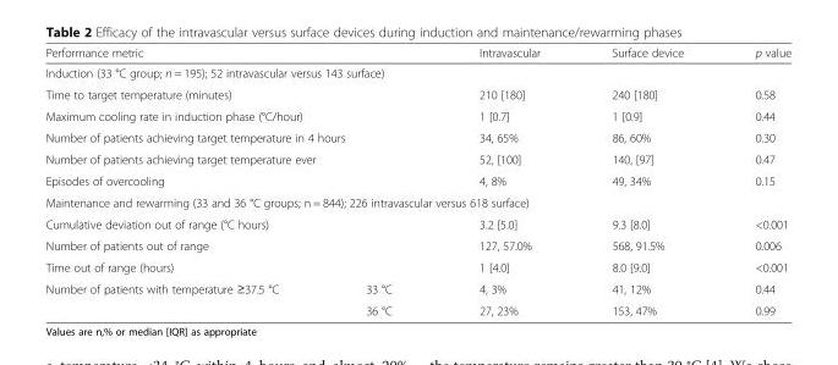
<table><thead><tr><td colspan="2">Performance metric</td><td>Intravascular</td><td>Surface device</td><td>p value</td></tr></thead><tbody><tr><td colspan="5">Induction (33 °C group; n = 195); 52 intravascular versus 143 surface)</td></tr><tr><td colspan="2">Time to target temperature (minutes)</td><td>210 [180]</td><td>240 [180]</td><td>0.58</td></tr><tr><td colspan="2">Maximum cooling rate in induction phase (°C/hour)</td><td>1 [0.7]</td><td>1 [0.9]</td><td>0.44</td></tr><tr><td colspan="2">Number of patients achieving target temperature in 4 hours</td><td>34, 65%</td><td>86, 60%</td><td>0.30</td></tr><tr><td colspan="2">Number of patients achieving target temperature ever</td><td>52, [100]</td><td>140, [97]</td><td>0.47</td></tr><tr><td colspan="2">Episodes of overcooling</td><td>4, 8%</td><td>49, 34%</td><td>0.15</td></tr><tr><td colspan="5">Maintenance and rewarming (33 and 36 °C groups; n = 844); 226 intravascular versus 618 surface)</td></tr><tr><td colspan="2">Cumulative deviation out of range (°C hours)</td><td>3.2 [5.0]</td><td>9.3 [8.0]</td><td>&lt;0.001</td></tr><tr><td colspan="2">Number of patients out of range</td><td>127, 57.0%</td><td>568, 91.5%</td><td>0.006</td></tr><tr><td colspan="2">Time out of range (hours)</td><td>1 [4.0]</td><td>8.0 [9.0]</td><td>&lt;0.001</td></tr><tr><td rowspan="2">Number of patients with temperature ≥37.5 °C</td><td>33 °C</td><td>4, 3%</td><td>41, 12%</td><td>0.44</td></tr><tr><td>36 °C</td><td>27, 23%</td><td>153, 47%</td><td>0.99</td></tr></tbody></table>